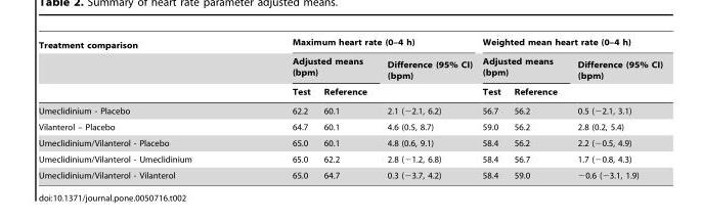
<table><thead><tr><td rowspan="3">Treatment comparison</td><td colspan="3">Maximum heart rate (0–4 h)</td><td colspan="3">Weighted mean heart rate (0–4 h)</td></tr><tr><td colspan="2">Adjusted means (bpm)</td><td rowspan="2">Difference (95% CI) (bpm)</td><td colspan="2">Adjusted means (bpm)</td><td rowspan="2">Difference (95% CI) (bpm)</td></tr><tr><td>Test</td><td>Reference</td><td>Test</td><td>Reference</td></tr></thead><tbody><tr><td>Umeclidinium - Placebo</td><td>62.2</td><td>60.1</td><td>2.1 (−2.1, 6.2)</td><td>56.7</td><td>56.2</td><td>0.5 (−2.1, 3.1)</td></tr><tr><td>Vilanterol – Placebo</td><td>64.7</td><td>60.1</td><td>4.6 (0.5, 8.7)</td><td>59.0</td><td>56.2</td><td>2.8 (0.2, 5.4)</td></tr><tr><td>Umeclidinium/Vilanterol - Placebo</td><td>65.0</td><td>60.1</td><td>4.8 (0.6, 9.1)</td><td>58.4</td><td>56.2</td><td>2.2 (−0.5, 4.9)</td></tr><tr><td>Umeclidinium/Vilanterol - Umeclidinium</td><td>65.0</td><td>62.2</td><td>2.8 (−1.2, 6.8)</td><td>58.4</td><td>56.7</td><td>1.7 (−0.8, 4.3)</td></tr><tr><td>Umeclidinium/Vilanterol - Vilanterol</td><td>65.0</td><td>64.7</td><td>0.3 (−3.7, 4.2)</td><td>58.4</td><td>59.0</td><td>−0.6 (−3.1, 1.9)</td></tr></tbody></table>